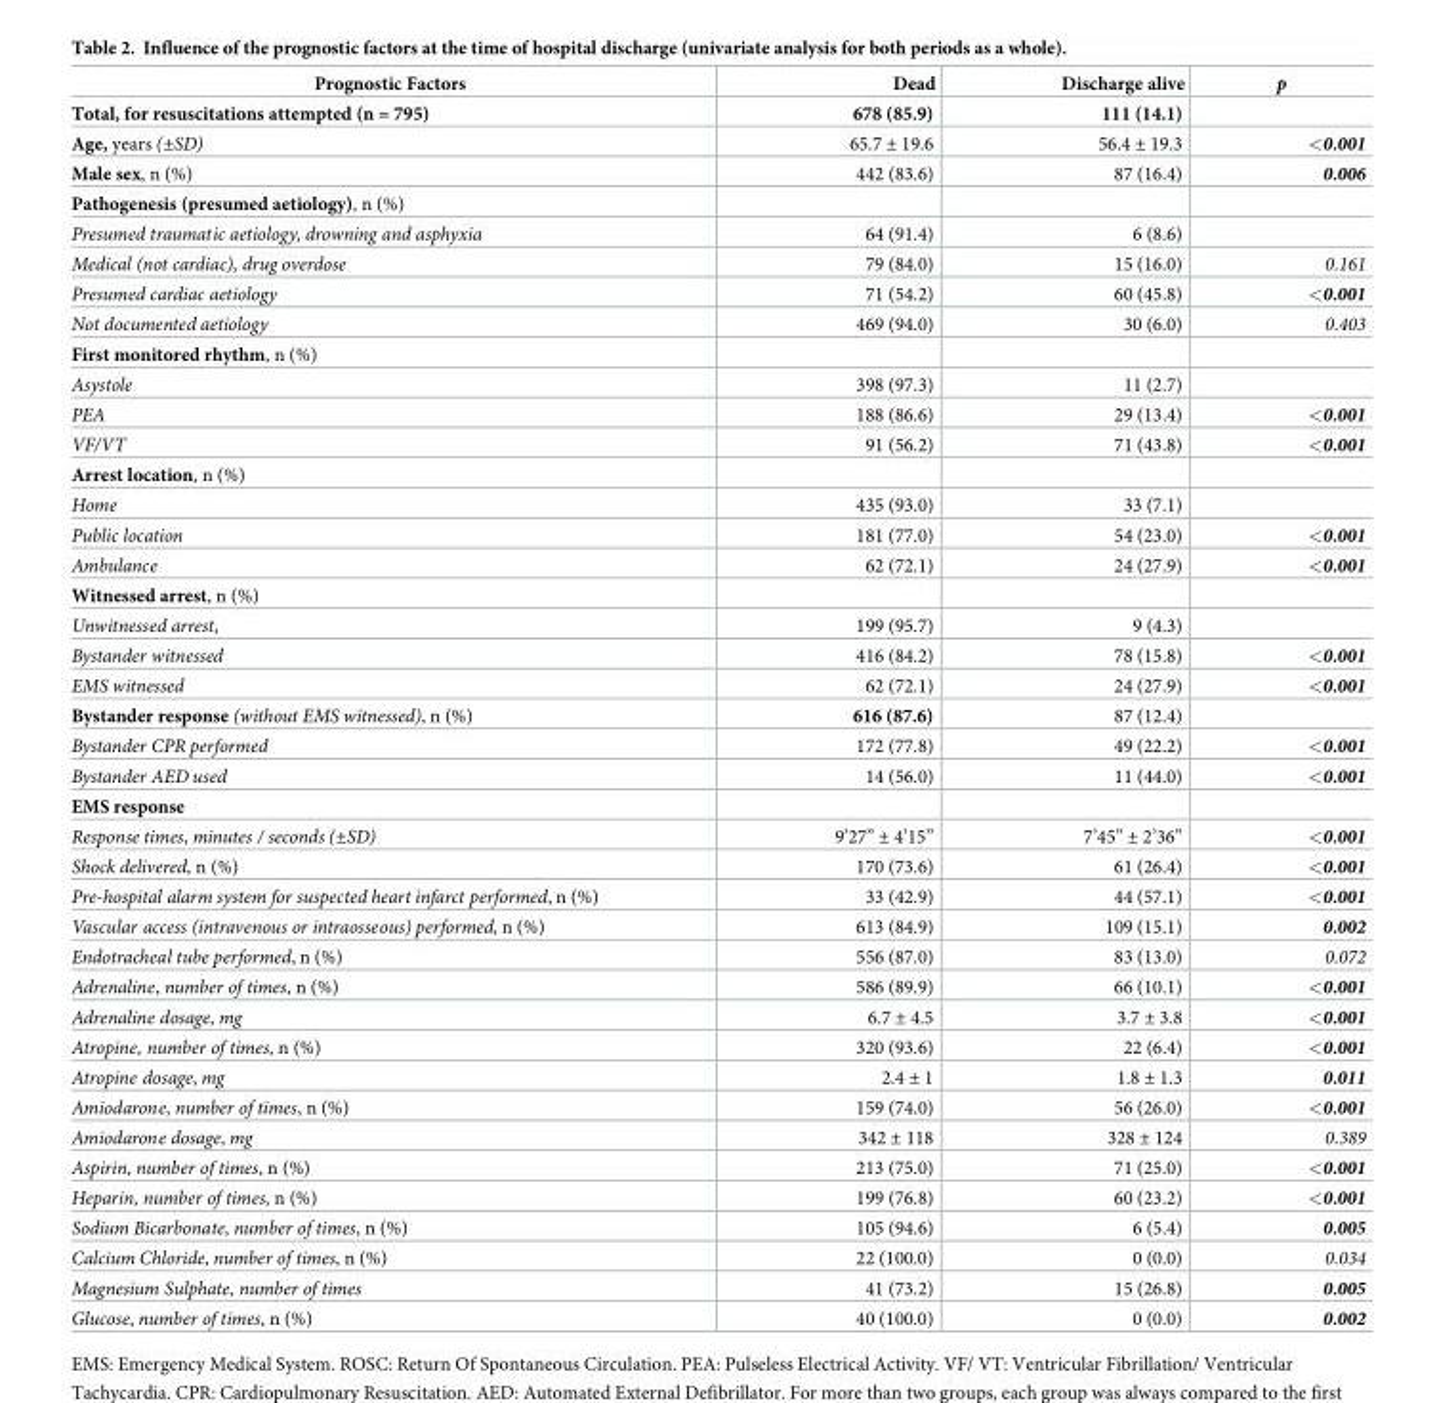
<table><thead><tr><td>Prognostic Factors</td><td>Dead</td><td>Discharge alive</td><td>p</td></tr></thead><tbody><tr><td>Total, for resuscitations attempted (n = 795)</td><td>678 (85.9)</td><td>111 (14.1)</td><td></td></tr><tr><td>Age, years (±SD)</td><td>65.7 ± 19.6</td><td>56.4 ± 19.3</td><td>&lt;0.001</td></tr><tr><td>Male sex, n (%)</td><td>442 (83.6)</td><td>87 (16.4)</td><td>0.006</td></tr><tr><td colspan="4">Pathogenesis (presumed aetiology), n (%)</td></tr><tr><td>Presumed traumatic aetiology, drowning and asphyxia</td><td>64 (91.4)</td><td>6 (8.6)</td><td></td></tr><tr><td>Medical (not cardiac), drug overdose</td><td>79 (84.0)</td><td>15 (16.0)</td><td>0.161</td></tr><tr><td>Presumed cardiac aetiology</td><td>71 (54.2)</td><td>60 (45.8)</td><td>&lt;0.001</td></tr><tr><td>Not documented aetiology</td><td>469 (94.0)</td><td>30 (6.0)</td><td>0.403</td></tr><tr><td colspan="4">First monitored rhythm, n (%)</td></tr><tr><td>Asystole</td><td>398 (97.3)</td><td>11 (2.7)</td><td></td></tr><tr><td>PEA</td><td>188 (86.6)</td><td>29 (13.4)</td><td>&lt;0.001</td></tr><tr><td>VF/VT</td><td>91 (56.2)</td><td>71 (43.8)</td><td>&lt;0.001</td></tr><tr><td colspan="4">Arrest location, n (%)</td></tr><tr><td>Home</td><td>435 (93.0)</td><td>33 (7.1)</td><td></td></tr><tr><td>Public location</td><td>181 (77.0)</td><td>54 (23.0)</td><td>&lt;0.001</td></tr><tr><td>Ambulance</td><td>62 (72.1)</td><td>24 (27.9)</td><td>&lt;0.001</td></tr><tr><td colspan="4">Witnessed arrest, n (%)</td></tr><tr><td>Unwitnessed arrest,</td><td>199 (95.7)</td><td>9 (4.3)</td><td></td></tr><tr><td>Bystander witnessed</td><td>416 (84.2)</td><td>78 (15.8)</td><td>&lt;0.001</td></tr><tr><td>EMS witnessed</td><td>62 (72.1)</td><td>24 (27.9)</td><td>&lt;0.001</td></tr><tr><td>Bystander response (without EMS witnessed), n (%)</td><td>616 (87.6)</td><td>87 (12.4)</td><td></td></tr><tr><td>Bystander CPR performed</td><td>172 (77.8)</td><td>49 (22.2)</td><td>&lt;0.001</td></tr><tr><td>Bystander AED used</td><td>14 (56.0)</td><td>11 (44.0)</td><td>&lt;0.001</td></tr><tr><td colspan="4">EMS response</td></tr><tr><td>Response times, minutes / seconds (±SD)</td><td>9’27” ± 4’15”</td><td>7’45” ± 2’36”</td><td>&lt;0.001</td></tr><tr><td>Shock delivered, n (%)</td><td>170 (73.6)</td><td>61 (26.4)</td><td>&lt;0.001</td></tr><tr><td>Pre-hospital alarm system for suspected heart infarct performed, n (%)</td><td>33 (42.9)</td><td>44 (57.1)</td><td>&lt;0.001</td></tr><tr><td>Vascular access (intravenous or intraosseous) performed, n (%)</td><td>613 (84.9)</td><td>109 (15.1)</td><td>0.002</td></tr><tr><td>Endotracheal tube performed, n (%)</td><td>556 (87.0)</td><td>83 (13.0)</td><td>0.072</td></tr><tr><td>Adrenaline, number of times, n (%)</td><td>586 (89.9)</td><td>66 (10.1)</td><td>&lt;0.001</td></tr><tr><td>Adrenaline dosage, mg</td><td>6.7 ± 4.5</td><td>3.7 ± 3.8</td><td>&lt;0.001</td></tr><tr><td>Atropine, number of times, n (%)</td><td>320 (93.6)</td><td>22 (6.4)</td><td>&lt;0.001</td></tr><tr><td>Atropine dosage, mg</td><td>2.4 ± 1</td><td>1.8 ± 1.3</td><td>0.011</td></tr><tr><td>Amiodarone, number of times, n (%)</td><td>159 (74.0)</td><td>56 (26.0)</td><td>&lt;0.001</td></tr><tr><td>Amiodarone dosage, mg</td><td>342 ± 118</td><td>328 ± 124</td><td>0.389</td></tr><tr><td>Aspirin, number of times, n (%)</td><td>213 (75.0)</td><td>71 (25.0)</td><td>&lt;0.001</td></tr><tr><td>Heparin, number of times, n (%)</td><td>199 (76.8)</td><td>60 (23.2)</td><td>&lt;0.001</td></tr><tr><td>Sodium Bicarbonate, number of times, n (%)</td><td>105 (94.6)</td><td>6 (5.4)</td><td>0.005</td></tr><tr><td>Calcium Chloride, number of times, n (%)</td><td>22 (100.0)</td><td>0 (0.0)</td><td>0.034</td></tr><tr><td>Magnesium Sulphate, number of times</td><td>41 (73.2)</td><td>15 (26.8)</td><td>0.005</td></tr><tr><td>Glucose, number of times, n (%)</td><td>40 (100.0)</td><td>0 (0.0)</td><td>0.002</td></tr></tbody></table>